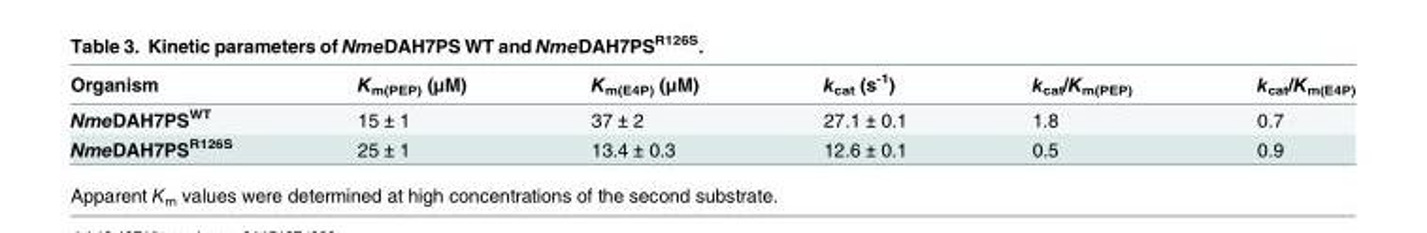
<table><thead><tr><td>Organism</td><td>K<sub>m(PEP)</sub> (μM)</td><td>K<sub>m(E4P)</sub> (μM)</td><td>k<sub>cat</sub> (s<sup>-1</sup>)</td><td>k<sub>cat</sub>/K<sub>m(PEP)</sub></td><td>k<sub>cat</sub>/K<sub>m(E4P)</sub></td></tr></thead><tbody><tr><td>NmeDAH7PS<sup>WT</sup></td><td>15 ± 1</td><td>37 ± 2</td><td>27.1 ± 0.1</td><td>1.8</td><td>0.7</td></tr><tr><td>NmeDAH7PS<sup>R126S</sup></td><td>25 ± 1</td><td>13.4 ± 0.3</td><td>12.6 ± 0.1</td><td>0.5</td><td>0.9</td></tr></tbody></table>